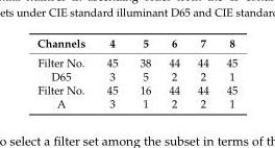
<table><thead><tr><td>Channels</td><td>4</td><td>5</td><td>6</td><td>7</td><td>8</td></tr></thead><tbody><tr><td>Filter No.</td><td>45</td><td>38</td><td>44</td><td>44</td><td>45</td></tr><tr><td>D65</td><td>3</td><td>5</td><td>2</td><td>2</td><td>1</td></tr><tr><td>Filter No.</td><td>45</td><td>16</td><td>44</td><td>44</td><td>45</td></tr><tr><td>A</td><td>3</td><td>1</td><td>2</td><td>2</td><td>1</td></tr></tbody></table>